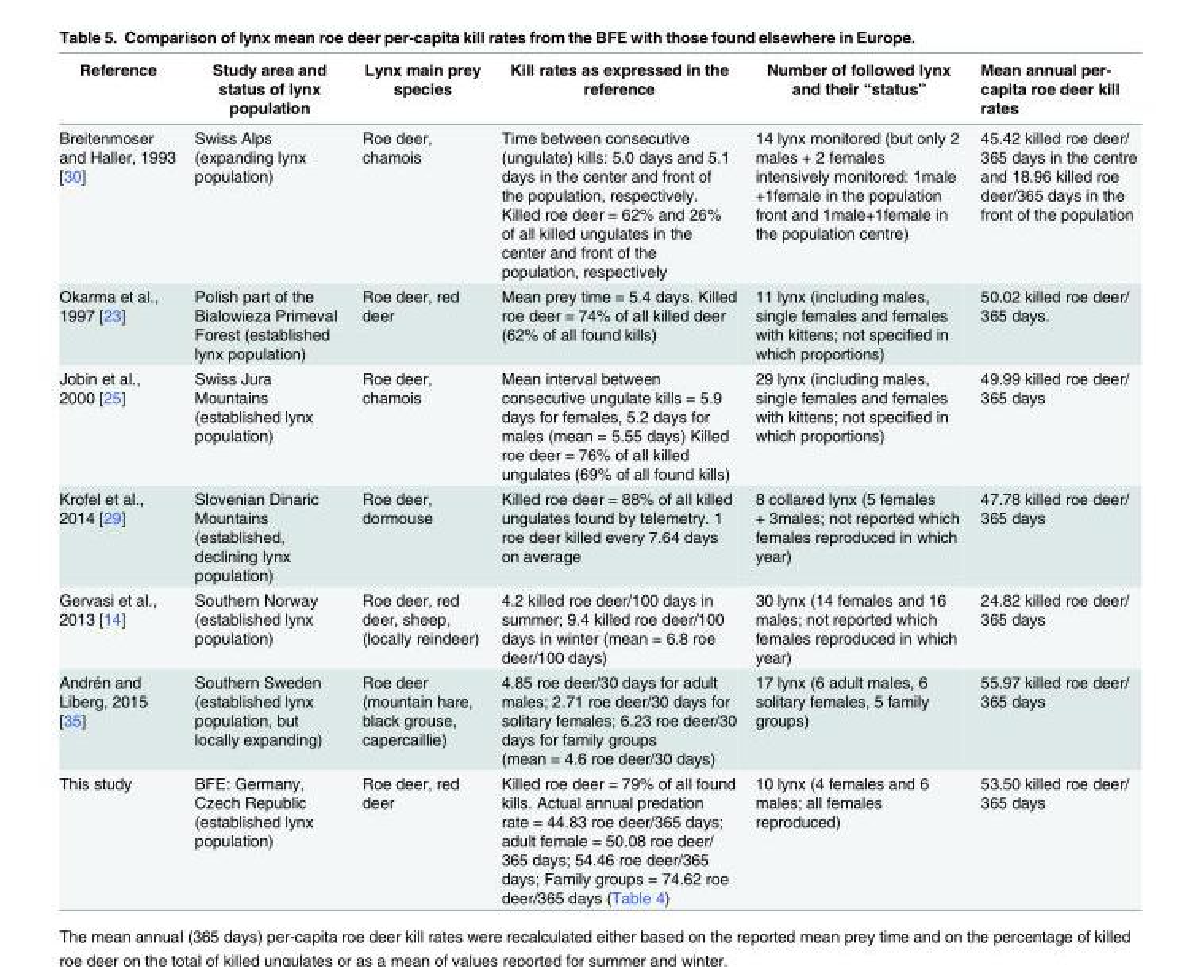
<table><thead><tr><td>Reference</td><td>Study area and status of lynx population</td><td>Lynx main prey species</td><td>Kill rates as expressed in the reference</td><td>Number of followed lynx and their “status”</td><td>Mean annual per- capita roe deer kill rates</td></tr></thead><tbody><tr><td>Breitenmoser and Haller, 1993 [30]</td><td>Swiss Alps (expanding lynx population)</td><td>Roe deer, chamois</td><td>Time between consecutive (ungulate) kills: 5.0 days and 5.1 days in the center and front of the population, respectively. Killed roe deer = 62% and 26% of all killed ungulates in the center and front of the population, respectively</td><td>14 lynx monitored (but only 2 males + 2 females intensively monitored: 1male +1female in the population front and 1male+1female in the population centre)</td><td>45.42 killed roe deer/ 365 days in the centre and 18.96 killed roe deer/365 days in the front of the population</td></tr><tr><td>Okarma et al., 1997 [23]</td><td>Polish part of the Bialowieza Primeval Forest (established lynx population)</td><td>Roe deer, red deer</td><td>Mean prey time = 5.4 days. Killed roe deer = 74% of all killed deer (62% of all found kills)</td><td>11 lynx (including males, single females and females with kittens; not specified in which proportions)</td><td>50.02 killed roe deer/ 365 days.</td></tr><tr><td>Jobin et al., 2000 [25]</td><td>Swiss Jura Mountains (established lynx population)</td><td>Roe deer, chamois</td><td>Mean interval between consecutive ungulate kills = 5.9 days for females, 5.2 days for males (mean = 5.55 days) Killed roe deer = 76% of all killed ungulates (69% of all found kills)</td><td>29 lynx (including males, single females and females with kittens; not specified in which proportions)</td><td>49.99 killed roe deer/ 365 days</td></tr><tr><td>Krofel et al., 2014 [29]</td><td>Slovenian Dinaric Mountains (established, declining lynx population)</td><td>Roe deer, dormouse</td><td>Killed roe deer = 88% of all killed ungulates found by telemetry. 1 roe deer killed every 7.64 days on average</td><td>8 collared lynx (5 females + 3males; not reported which females reproduced in which year)</td><td>47.78 killed roe deer/ 365 days</td></tr><tr><td>Gervasi et al., 2013 [14]</td><td>Southern Norway (established lynx population)</td><td>Roe deer, red deer, sheep, (locally reindeer)</td><td>4.2 killed roe deer/100 days in summer; 9.4 killed roe deer/100 days in winter (mean = 6.8 roe deer/100 days)</td><td>30 lynx (14 females and 16 males; not reported which females reproduced in which year)</td><td>24.82 killed roe deer/ 365 days</td></tr><tr><td>Andrén and Liberg, 2015 [35]</td><td>Southern Sweden (established lynx population, but locally expanding)</td><td>Roe deer (mountain hare, black grouse, capercaillie)</td><td>4.85 roe deer/30 days for adult males; 2.71 roe deer/30 days for solitary females; 6.23 roe deer/30 days for family groups (mean = 4.6 roe deer/30 days)</td><td>17 lynx (6 adult males, 6 solitary females, 5 family groups)</td><td>55.97 killed roe deer/ 365 days</td></tr><tr><td>This study</td><td>BFE: Germany, Czech Republic (established lynx population)</td><td>Roe deer, red deer</td><td>Killed roe deer = 79% of all found kills. Actual annual predation rate = 44.83 roe deer/365 days; adult female = 50.08 roe deer/ 365 days; 54.46 roe deer/365 days; Family groups = 74.62 roe deer/365 days (Table 4)</td><td>10 lynx (4 females and 6 males; all females reproduced)</td><td>53.50 killed roe deer/ 365 days</td></tr></tbody></table>